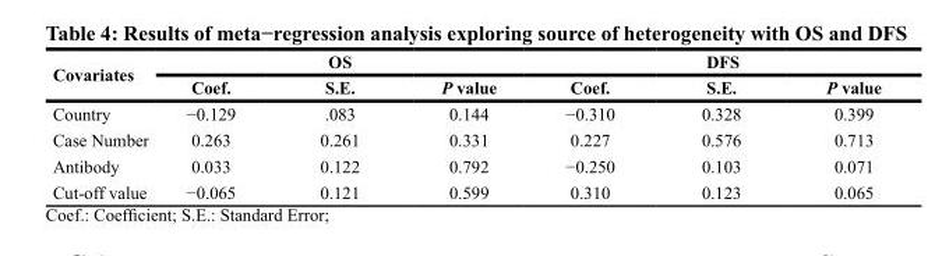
<table><thead><tr><td rowspan="2">Covariates</td><td colspan="3">OS</td><td colspan="3">DFS</td></tr><tr><td>Coef.</td><td>S.E.</td><td>P value</td><td>Coef.</td><td>S.E.</td><td>P value</td></tr></thead><tbody><tr><td>Country</td><td>−0.129</td><td>.083</td><td>0.144</td><td>−0.310</td><td>0.328</td><td>0.399</td></tr><tr><td>Case Number</td><td>0.263</td><td>0.261</td><td>0.331</td><td>0.227</td><td>0.576</td><td>0.713</td></tr><tr><td>Antibody</td><td>0.033</td><td>0.122</td><td>0.792</td><td>−0.250</td><td>0.103</td><td>0.071</td></tr><tr><td>Cut-off value</td><td>−0.065</td><td>0.121</td><td>0.599</td><td>0.310</td><td>0.123</td><td>0.065</td></tr></tbody></table>